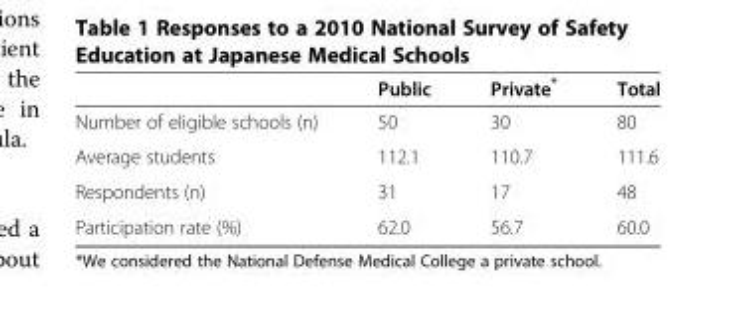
<table><thead><tr><td></td><td>Public</td><td>Private*</td><td>Total</td></tr></thead><tbody><tr><td>Number of eligible schools (n)</td><td>50</td><td>30</td><td>80</td></tr><tr><td>Average students</td><td>112.1</td><td>110.7</td><td>111.6</td></tr><tr><td>Respondents (n)</td><td>31</td><td>17</td><td>48</td></tr><tr><td>Participation rate (%)</td><td>62.0</td><td>56.7</td><td>60.0</td></tr></tbody></table>